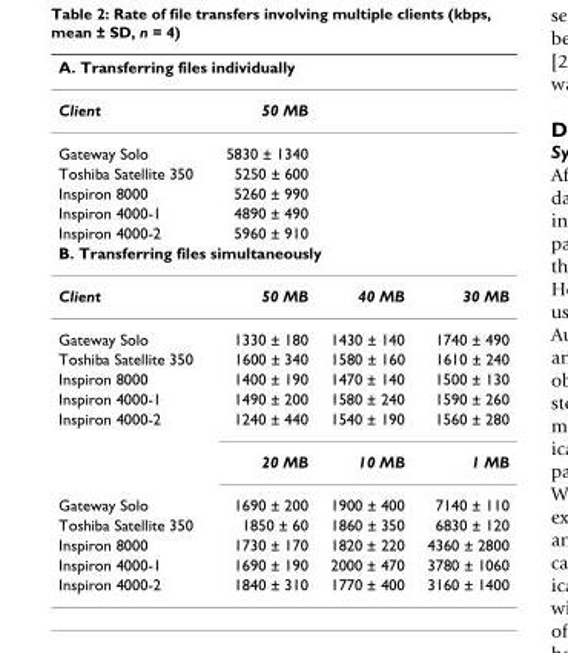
<table><thead><tr><td colspan="4">A. Transferring files individually</td></tr><tr><td>Client</td><td>50 MB</td><td></td><td></td></tr></thead><tbody><tr><td>Gateway Solo</td><td>5830 ± 1340</td><td></td><td></td></tr><tr><td>Toshiba Satellite 350</td><td>5250 ± 600</td><td></td><td></td></tr><tr><td>Inspiron 8000</td><td>5260 ± 990</td><td></td><td></td></tr><tr><td>Inspiron 4000-1</td><td>4890 ± 490</td><td></td><td></td></tr><tr><td>Inspiron 4000-2</td><td>5960 ± 910</td><td></td><td></td></tr><tr><td colspan="4">B. Transferring files simultaneously</td></tr><tr><td>Client</td><td>50 MB</td><td>40 MB</td><td>30 MB</td></tr><tr><td>Gateway Solo</td><td>1330 ± 180</td><td>1430 ± 140</td><td>1740 ± 490</td></tr><tr><td>Toshiba Satellite 350</td><td>1600 ± 340</td><td>1580 ± 160</td><td>1610 ± 240</td></tr><tr><td>Inspiron 8000</td><td>1400 ± 190</td><td>1470 ± 140</td><td>1500 ± 130</td></tr><tr><td>Inspiron 4000-1</td><td>1490 ± 200</td><td>1580 ± 240</td><td>1590 ± 260</td></tr><tr><td rowspan="2">Inspiron 4000-2</td><td>1240 ± 440</td><td>1540 ± 190</td><td>1560 ± 280</td></tr><tr><td>20 MB</td><td>10 MB</td><td>1 MB</td></tr><tr><td>Gateway Solo</td><td>1690 ± 200</td><td>1900 ± 400</td><td>7140 ± 110</td></tr><tr><td>Toshiba Satellite 350</td><td>1850 ± 60</td><td>1860 ± 350</td><td>6830 ± 120</td></tr><tr><td>Inspiron 8000</td><td>1730 ± 170</td><td>1820 ± 220</td><td>4360 ± 2800</td></tr><tr><td>Inspiron 4000-1</td><td>1690 ± 190</td><td>2000 ± 470</td><td>3780 ± 1060</td></tr><tr><td>Inspiron 4000-2</td><td>1840 ± 310</td><td>1770 ± 400</td><td>3160 ± 1400</td></tr></tbody></table>